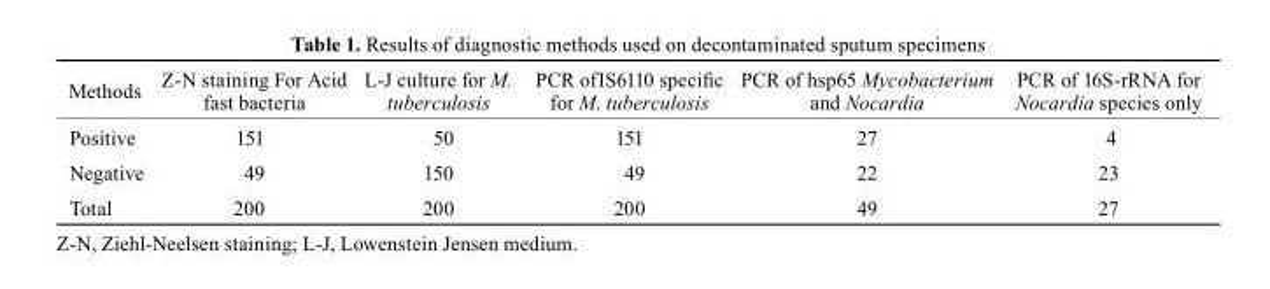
<table><thead><tr><td>Methods</td><td>Z-N staining For Acid fast bacteria</td><td>L-J culture for M. tuberculosis</td><td>PCR ofIS6110 specific for M. tuberculosis</td><td>PCR of hsp65 Mycobacterium and Nocardia</td><td>PCR of 16S-rRNA for Nocardia species only</td></tr></thead><tbody><tr><td>Positive</td><td>151</td><td>50</td><td>151</td><td>27</td><td>4</td></tr><tr><td>Negative</td><td>49</td><td>150</td><td>49</td><td>22</td><td>23</td></tr><tr><td>Total</td><td>200</td><td>200</td><td>200</td><td>49</td><td>27</td></tr></tbody></table>